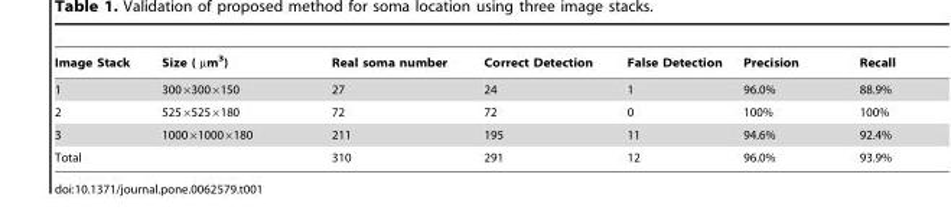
<table><thead><tr><td>Image Stack</td><td>Size ( µm<sup>3</sup>)</td><td>Real soma number</td><td>Correct Detection</td><td>False Detection</td><td>Precision</td><td>Recall</td></tr></thead><tbody><tr><td>1</td><td>300×300×150</td><td>27</td><td>24</td><td>1</td><td>96.0%</td><td>88.9%</td></tr><tr><td>2</td><td>525×525×180</td><td>72</td><td>72</td><td>0</td><td>100%</td><td>100%</td></tr><tr><td>3</td><td>1000×1000×180</td><td>211</td><td>195</td><td>11</td><td>94.6%</td><td>92.4%</td></tr><tr><td colspan="2">Total</td><td>310</td><td>291</td><td>12</td><td>96.0%</td><td>93.9%</td></tr></tbody></table>